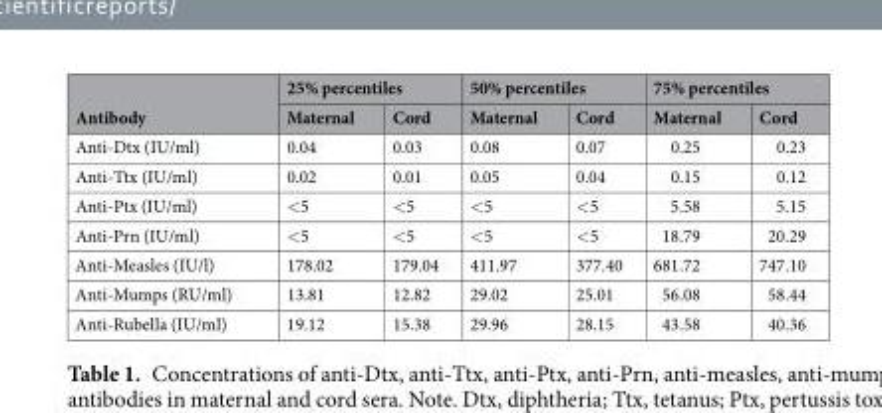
<table><thead><tr><td rowspan="2">Antibody</td><td colspan="2">25% percentiles</td><td colspan="2">50% percentiles</td><td colspan="2">75% percentiles</td></tr><tr><td>Maternal</td><td>Cord</td><td>Maternal</td><td>Cord</td><td>Maternal</td><td>Cord</td></tr></thead><tbody><tr><td>Anti-Dtx (IU/ml)</td><td>0.04</td><td>0.03</td><td>0.08</td><td>0.07</td><td>0.25</td><td>0.23</td></tr><tr><td>Anti-Ttx (IU/ml)</td><td>0.02</td><td>0.01</td><td>0.05</td><td>0.04</td><td>0.15</td><td>0.12</td></tr><tr><td>Anti-Ptx (IU/ml)</td><td>&lt;5</td><td>&lt;5</td><td>&lt;5</td><td>&lt;5</td><td>5.58</td><td>5.15</td></tr><tr><td>Anti-Prn (IU/ml)</td><td>&lt;5</td><td>&lt;5</td><td>&lt;5</td><td>&lt;5</td><td>18.79</td><td>20.29</td></tr><tr><td>Anti-Measles (IU/l)</td><td>178.02</td><td>179.04</td><td>411.97</td><td>377.40</td><td>681.72</td><td>747.10</td></tr><tr><td>Anti-Mumps (RU/ml)</td><td>13.81</td><td>12.82</td><td>29.02</td><td>25.01</td><td>56.08</td><td>58.44</td></tr><tr><td>Anti-Rubella (IU/ml)</td><td>19.12</td><td>15.38</td><td>29.96</td><td>28.15</td><td>43.58</td><td>40.36</td></tr></tbody></table>